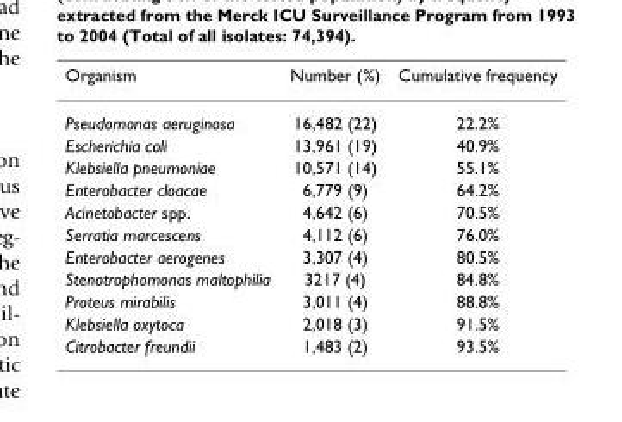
<table><thead><tr><td>Organism</td><td>Number (%)</td><td>Cumulative frequency</td></tr></thead><tbody><tr><td>Pseudomonas aeruginosa</td><td>16,482 (22)</td><td>22.2%</td></tr><tr><td>Escherichia coli</td><td>13,961 (19)</td><td>40.9%</td></tr><tr><td>Klebsiella pneumoniae</td><td>10,571 (14)</td><td>55.1%</td></tr><tr><td>Enterobacter cloacae</td><td>6,779 (9)</td><td>64.2%</td></tr><tr><td>Acinetobacter spp.</td><td>4,642 (6)</td><td>70.5%</td></tr><tr><td>Serratia marcescens</td><td>4,112 (6)</td><td>76.0%</td></tr><tr><td>Enterobacter aerogenes</td><td>3,307 (4)</td><td>80.5%</td></tr><tr><td>Stenotrophomonas maltophilia</td><td>3217 (4)</td><td>84.8%</td></tr><tr><td>Proteus mirabilis</td><td>3,011 (4)</td><td>88.8%</td></tr><tr><td>Klebsiella oxytoca</td><td>2,018 (3)</td><td>91.5%</td></tr><tr><td>Citrobacter freundii</td><td>1,483 (2)</td><td>93.5%</td></tr></tbody></table>